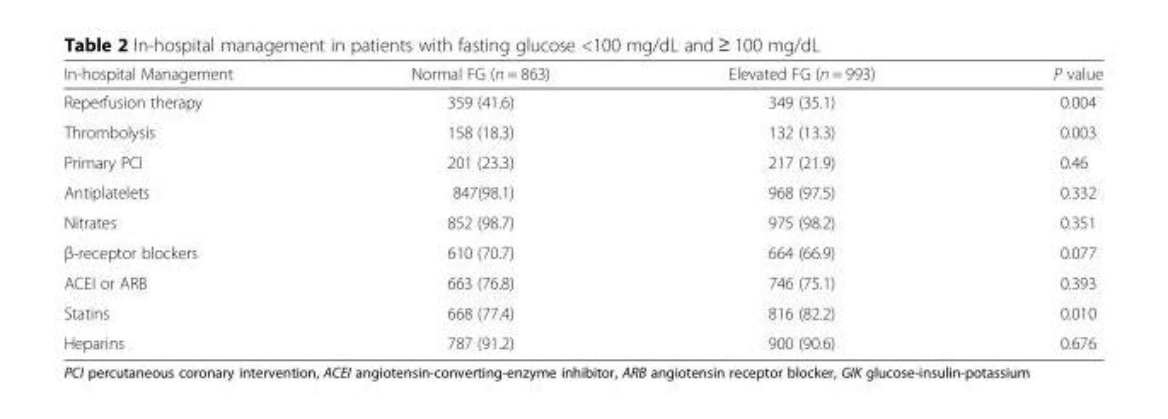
<table><thead><tr><td>In-hospital Management</td><td>Normal FG (n = 863)</td><td>Elevated FG (n = 993)</td><td>P value</td></tr></thead><tbody><tr><td>Reperfusion therapy</td><td>359 (41.6)</td><td>349 (35.1)</td><td>0.004</td></tr><tr><td>Thrombolysis</td><td>158 (18.3)</td><td>132 (13.3)</td><td>0.003</td></tr><tr><td>Primary PCI</td><td>201 (23.3)</td><td>217 (21.9)</td><td>0.46</td></tr><tr><td>Antiplatelets</td><td>847(98.1)</td><td>968 (97.5)</td><td>0.332</td></tr><tr><td>Nitrates</td><td>852 (98.7)</td><td>975 (98.2)</td><td>0.351</td></tr><tr><td>β-receptor blockers</td><td>610 (70.7)</td><td>664 (66.9)</td><td>0.077</td></tr><tr><td>ACEI or ARB</td><td>663 (76.8)</td><td>746 (75.1)</td><td>0.393</td></tr><tr><td>Statins</td><td>668 (77.4)</td><td>816 (82.2)</td><td>0.010</td></tr><tr><td>Heparins</td><td>787 (91.2)</td><td>900 (90.6)</td><td>0.676</td></tr></tbody></table>